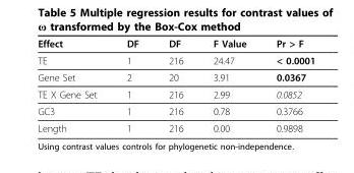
<table><thead><tr><td>Effect</td><td>DF</td><td>DF</td><td>F Value</td><td>Pr &gt; F</td></tr></thead><tbody><tr><td>TE</td><td>1</td><td>216</td><td>24.47</td><td>&lt; 0.0001</td></tr><tr><td>Gene Set</td><td>2</td><td>20</td><td>3.91</td><td>0.0367</td></tr><tr><td>TE X Gene Set</td><td>1</td><td>216</td><td>2.99</td><td>0.0852</td></tr><tr><td>GC3</td><td>1</td><td>216</td><td>0.78</td><td>0.3766</td></tr><tr><td>Length</td><td>1</td><td>216</td><td>0.00</td><td>0.9898</td></tr></tbody></table>